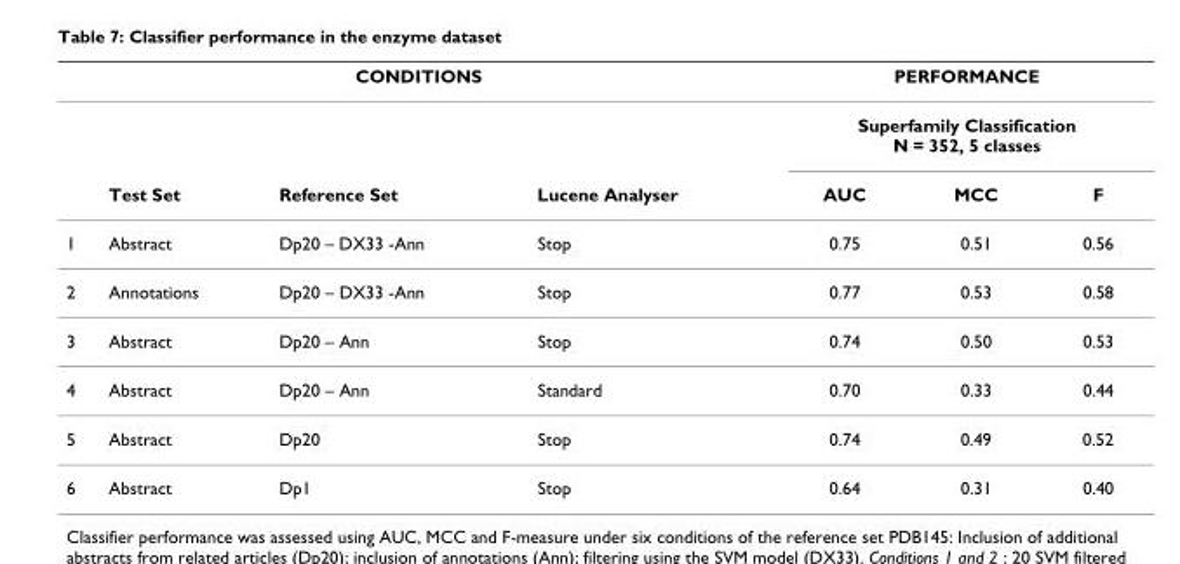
<table><thead><tr><td colspan="4">CONDITIONS</td><td rowspan="2" colspan="3">PERFORMANCE Superfamily Classification N = 352, 5 classes</td></tr><tr><td rowspan="2"></td><td rowspan="2">Test Set</td><td rowspan="2">Reference Set</td><td rowspan="2">Lucene Analyser</td></tr><tr><td>AUC</td><td>MCC</td><td>F</td></tr></thead><tbody><tr><td>1</td><td>Abstract</td><td>Dp20 – DX33 -Ann</td><td>Stop</td><td>0.75</td><td>0.51</td><td>0.56</td></tr><tr><td>2</td><td>Annotations</td><td>Dp20 – DX33 -Ann</td><td>Stop</td><td>0.77</td><td>0.53</td><td>0.58</td></tr><tr><td>3</td><td>Abstract</td><td>Dp20 – Ann</td><td>Stop</td><td>0.74</td><td>0.50</td><td>0.53</td></tr><tr><td>4</td><td>Abstract</td><td>Dp20 – Ann</td><td>Standard</td><td>0.70</td><td>0.33</td><td>0.44</td></tr><tr><td>5</td><td>Abstract</td><td>Dp20</td><td>Stop</td><td>0.74</td><td>0.49</td><td>0.52</td></tr><tr><td>6</td><td>Abstract</td><td>Dp1</td><td>Stop</td><td>0.64</td><td>0.31</td><td>0.40</td></tr></tbody></table>